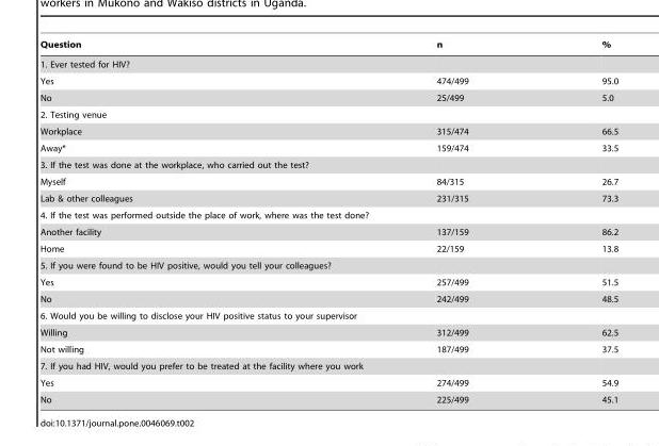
<table><thead><tr><td>Question</td><td>n</td><td>%</td></tr></thead><tbody><tr><td colspan="3">1. Ever tested for HIV?</td></tr><tr><td>Yes</td><td>474/499</td><td>95.0</td></tr><tr><td>No</td><td>25/499</td><td>5.0</td></tr><tr><td colspan="3">2. Testing venue</td></tr><tr><td>Workplace</td><td>315/474</td><td>66.5</td></tr><tr><td>Away*</td><td>159/474</td><td>33.5</td></tr><tr><td colspan="3">3. If the test was done at the workplace, who carried out the test?</td></tr><tr><td>Myself</td><td>84/315</td><td>26.7</td></tr><tr><td>Lab &amp; other colleagues</td><td>231/315</td><td>73.3</td></tr><tr><td colspan="3">4. If the test was performed outside the place of work, where was the test done?</td></tr><tr><td>Another facility</td><td>137/159</td><td>86.2</td></tr><tr><td>Home</td><td>22/159</td><td>13.8</td></tr><tr><td colspan="3">5. If you were found to be HIV positive, would you tell your colleagues?</td></tr><tr><td>Yes</td><td>257/499</td><td>51.5</td></tr><tr><td>No</td><td>242/499</td><td>48.5</td></tr><tr><td colspan="3">6. Would you be willing to disclose your HIV positive status to your supervisor</td></tr><tr><td>Willing</td><td>312/499</td><td>62.5</td></tr><tr><td>Not willing</td><td>187/499</td><td>37.5</td></tr><tr><td colspan="3">7. If you had HIV, would you prefer to be treated at the facility where you work</td></tr><tr><td>Yes</td><td>274/499</td><td>54.9</td></tr><tr><td>No</td><td>225/499</td><td>45.1</td></tr></tbody></table>